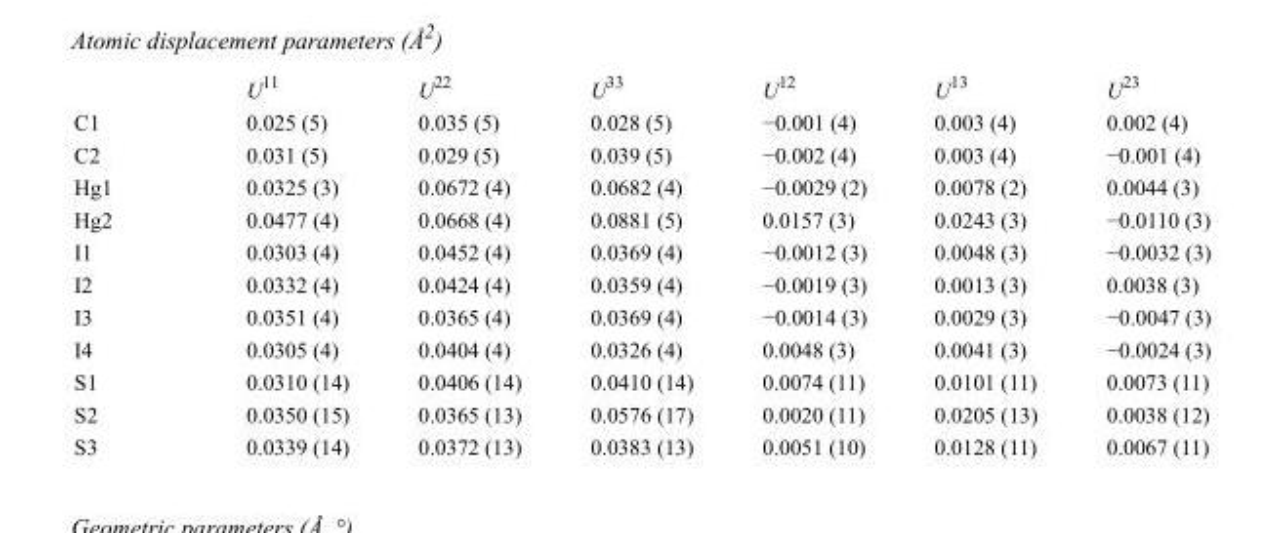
<table><thead><tr><td></td><td>U<sup>11</sup></td><td>U<sup>22</sup></td><td>U<sup>33</sup></td><td>U<sup>12</sup></td><td>U<sup>13</sup></td><td>U<sup>23</sup></td></tr></thead><tbody><tr><td>C1</td><td>0.025 (5)</td><td>0.035 (5)</td><td>0.028 (5)</td><td>−0.001 (4)</td><td>0.003 (4)</td><td>0.002 (4)</td></tr><tr><td>C2</td><td>0.031 (5)</td><td>0.029 (5)</td><td>0.039 (5)</td><td>−0.002 (4)</td><td>0.003 (4)</td><td>−0.001 (4)</td></tr><tr><td>Hg1</td><td>0.0325 (3)</td><td>0.0672 (4)</td><td>0.0682 (4)</td><td>−0.0029 (2)</td><td>0.0078 (2)</td><td>0.0044 (3)</td></tr><tr><td>Hg2</td><td>0.0477 (4)</td><td>0.0668 (4)</td><td>0.0881 (5)</td><td>0.0157 (3)</td><td>0.0243 (3)</td><td>−0.0110 (3)</td></tr><tr><td>I1</td><td>0.0303 (4)</td><td>0.0452 (4)</td><td>0.0369 (4)</td><td>−0.0012 (3)</td><td>0.0048 (3)</td><td>−0.0032 (3)</td></tr><tr><td>I2</td><td>0.0332 (4)</td><td>0.0424 (4)</td><td>0.0359 (4)</td><td>−0.0019 (3)</td><td>0.0013 (3)</td><td>0.0038 (3)</td></tr><tr><td>I3</td><td>0.0351 (4)</td><td>0.0365 (4)</td><td>0.0369 (4)</td><td>−0.0014 (3)</td><td>0.0029 (3)</td><td>−0.0047 (3)</td></tr><tr><td>I4</td><td>0.0305 (4)</td><td>0.0404 (4)</td><td>0.0326 (4)</td><td>0.0048 (3)</td><td>0.0041 (3)</td><td>−0.0024 (3)</td></tr><tr><td>S1</td><td>0.0310 (14)</td><td>0.0406 (14)</td><td>0.0410 (14)</td><td>0.0074 (11)</td><td>0.0101 (11)</td><td>0.0073 (11)</td></tr><tr><td>S2</td><td>0.0350 (15)</td><td>0.0365 (13)</td><td>0.0576 (17)</td><td>0.0020 (11)</td><td>0.0205 (13)</td><td>0.0038 (12)</td></tr><tr><td>S3</td><td>0.0339 (14)</td><td>0.0372 (13)</td><td>0.0383 (13)</td><td>0.0051 (10)</td><td>0.0128 (11)</td><td>0.0067 (11)</td></tr></tbody></table>